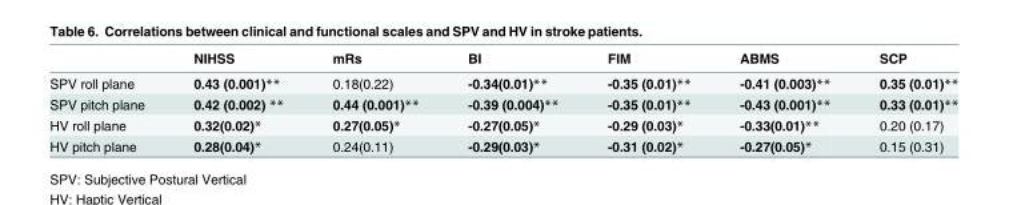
<table><thead><tr><td></td><td>NIHSS</td><td>mRs</td><td>BI</td><td>FIM</td><td>ABMS</td><td>SCP</td></tr></thead><tbody><tr><td>SPV roll plane</td><td>0.43 (0.001)**</td><td>0.18(0.22)</td><td>-0.34(0.01)**</td><td>-0.35 (0.01)**</td><td>-0.41 (0.003)**</td><td>0.35 (0.01)**</td></tr><tr><td>SPV pitch plane</td><td>0.42 (0.002) **</td><td>0.44 (0.001)**</td><td>-0.39 (0.004)**</td><td>-0.35 (0.01)**</td><td>-0.43 (0.001)**</td><td>0.33 (0.01)**</td></tr><tr><td>HV roll plane</td><td>0.32(0.02)*</td><td>0.27(0.05)*</td><td>-0.27(0.05)*</td><td>-0.29 (0.03)*</td><td>-0.33(0.01)**</td><td>0.20 (0.17)</td></tr><tr><td>HV pitch plane</td><td>0.28(0.04)*</td><td>0.24(0.11)</td><td>-0.29(0.03)*</td><td>-0.31 (0.02)*</td><td>-0.27(0.05)*</td><td>0.15 (0.31)</td></tr></tbody></table>